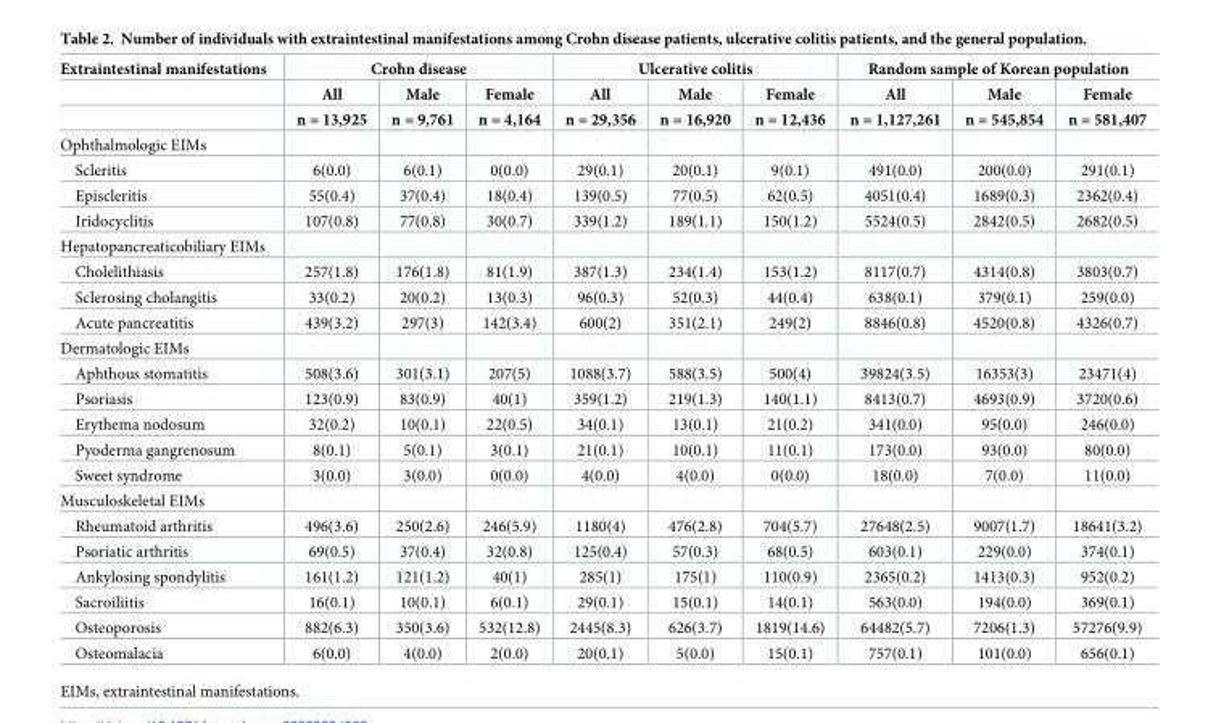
<table><thead><tr><td rowspan="3">Extraintestinal manifestations</td><td colspan="3">Crohn disease</td><td colspan="3">Ulcerative colitis</td><td colspan="3">Random sample of Korean population</td></tr><tr><td rowspan="2">All n = 13,925</td><td rowspan="2">Male n = 9,761</td><td rowspan="2">Female n = 4,164</td><td rowspan="2">All n = 29,356</td><td rowspan="2">Male n = 16,920</td><td rowspan="2">Female n = 12,436</td><td rowspan="2">All n = 1,127,261</td><td rowspan="2">Male n = 545,854</td><td rowspan="2">Female n = 581,407</td></tr><tr></tr></thead><tbody><tr><td colspan="10">Ophthalmologic EIMs</td></tr><tr><td>Scleritis</td><td>6(0.0)</td><td>6(0.1)</td><td>0(0.0)</td><td>29(0.1)</td><td>20(0.1)</td><td>9(0.1)</td><td>491(0.0)</td><td>200(0.0)</td><td>291(0.1)</td></tr><tr><td>Episcleritis</td><td>55(0.4)</td><td>37(0.4)</td><td>18(0.4)</td><td>139(0.5)</td><td>77(0.5)</td><td>62(0.5)</td><td>4051(0.4)</td><td>1689(0.3)</td><td>2362(0.4)</td></tr><tr><td>Iridocyclitis</td><td>107(0.8)</td><td>77(0.8)</td><td>30(0.7)</td><td>339(1.2)</td><td>189(1.1)</td><td>150(1.2)</td><td>5524(0.5)</td><td>2842(0.5)</td><td>2682(0.5)</td></tr><tr><td colspan="10">Hepatopancreaticobiliary EIMs</td></tr><tr><td>Cholelithiasis</td><td>257(1.8)</td><td>176(1.8)</td><td>81(1.9)</td><td>387(1.3)</td><td>234(1.4)</td><td>153(1.2)</td><td>8117(0.7)</td><td>4314(0.8)</td><td>3803(0.7)</td></tr><tr><td>Sclerosing cholangitis</td><td>33(0.2)</td><td>20(0.2)</td><td>13(0.3)</td><td>96(0.3)</td><td>52(0.3)</td><td>44(0.4)</td><td>638(0.1)</td><td>379(0.1)</td><td>259(0.0)</td></tr><tr><td>Acute pancreatitis</td><td>439(3.2)</td><td>297(3)</td><td>142(3.4)</td><td>600(2)</td><td>351(2.1)</td><td>249(2)</td><td>8846(0.8)</td><td>4520(0.8)</td><td>4326(0.7)</td></tr><tr><td colspan="10">Dermatologic EIMs</td></tr><tr><td>Aphthous stomatitis</td><td>508(3.6)</td><td>301(3.1)</td><td>207(5)</td><td>1088(3.7)</td><td>588(3.5)</td><td>500(4)</td><td>39824(3.5)</td><td>16353(3)</td><td>23471(4)</td></tr><tr><td>Psoriasis</td><td>123(0.9)</td><td>83(0.9)</td><td>40(1)</td><td>359(1.2)</td><td>219(1.3)</td><td>140(1.1)</td><td>8413(0.7)</td><td>4693(0.9)</td><td>3720(0.6)</td></tr><tr><td>Erythema nodosum</td><td>32(0.2)</td><td>10(0.1)</td><td>22(0.5)</td><td>34(0.1)</td><td>13(0.1)</td><td>21(0.2)</td><td>341(0.0)</td><td>95(0.0)</td><td>246(0.0)</td></tr><tr><td>Pyoderma gangrenosum</td><td>8(0.1)</td><td>5(0.1)</td><td>3(0.1)</td><td>21(0.1)</td><td>10(0.1)</td><td>11(0.1)</td><td>173(0.0)</td><td>93(0.0)</td><td>80(0.0)</td></tr><tr><td>Sweet syndrome</td><td>3(0.0)</td><td>3(0.0)</td><td>0(0.0)</td><td>4(0.0)</td><td>4(0.0)</td><td>0(0.0)</td><td>18(0.0)</td><td>7(0.0)</td><td>11(0.0)</td></tr><tr><td colspan="10">Musculoskeletal EIMs</td></tr><tr><td>Rheumatoid arthritis</td><td>496(3.6)</td><td>250(2.6)</td><td>246(5.9)</td><td>1180(4)</td><td>476(2.8)</td><td>704(5.7)</td><td>27648(2.5)</td><td>9007(1.7)</td><td>18641(3.2)</td></tr><tr><td>Psoriatic arthritis</td><td>69(0.5)</td><td>37(0.4)</td><td>32(0.8)</td><td>125(0.4)</td><td>57(0.3)</td><td>68(0.5)</td><td>603(0.1)</td><td>229(0.0)</td><td>374(0.1)</td></tr><tr><td>Ankylosing spondylitis</td><td>161(1.2)</td><td>121(1.2)</td><td>40(1)</td><td>285(1)</td><td>175(1)</td><td>110(0.9)</td><td>2365(0.2)</td><td>1413(0.3)</td><td>952(0.2)</td></tr><tr><td>Sacroiliitis</td><td>16(0.1)</td><td>10(0.1)</td><td>6(0.1)</td><td>29(0.1)</td><td>15(0.1)</td><td>14(0.1)</td><td>563(0.0)</td><td>194(0.0)</td><td>369(0.1)</td></tr><tr><td>Osteoporosis</td><td>882(6.3)</td><td>350(3.6)</td><td>532(12.8)</td><td>2445(8.3)</td><td>626(3.7)</td><td>1819(14.6)</td><td>64482(5.7)</td><td>7206(1.3)</td><td>57276(9.9)</td></tr><tr><td>Osteomalacia</td><td>6(0.0)</td><td>4(0.0)</td><td>2(0.0)</td><td>20(0.1)</td><td>5(0.0)</td><td>15(0.1)</td><td>757(0.1)</td><td>101(0.0)</td><td>656(0.1)</td></tr></tbody></table>